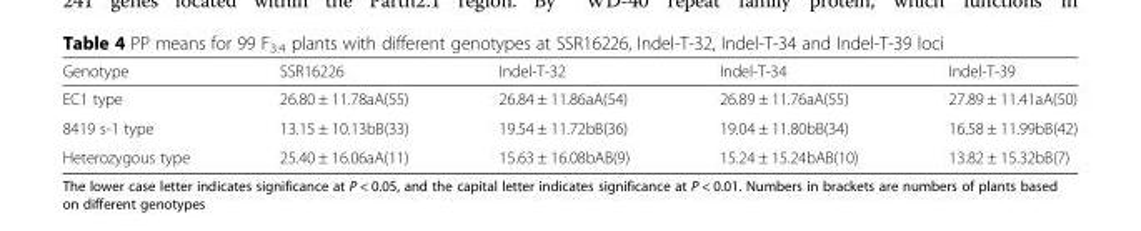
<table><thead><tr><td>Genotype</td><td>SSR16226</td><td>Indel-T-32</td><td>Indel-T-34</td><td>Indel-T-39</td></tr></thead><tbody><tr><td>EC1 type</td><td>26.80 ± 11.78aA(55)</td><td>26.84 ± 11.86aA(54)</td><td>26.89 ± 11.76aA(55)</td><td>27.89 ± 11.41aA(50)</td></tr><tr><td>8419 s-1 type</td><td>13.15 ± 10.13bB(33)</td><td>19.54 ± 11.72bB(36)</td><td>19.04 ± 11.80bB(34)</td><td>16.58 ± 11.99bB(42)</td></tr><tr><td>Heterozygous type</td><td>25.40 ± 16.06aA(11)</td><td>15.63 ± 16.08bAB(9)</td><td>15.24 ± 15.24bAB(10)</td><td>13.82 ± 15.32bB(7)</td></tr></tbody></table>